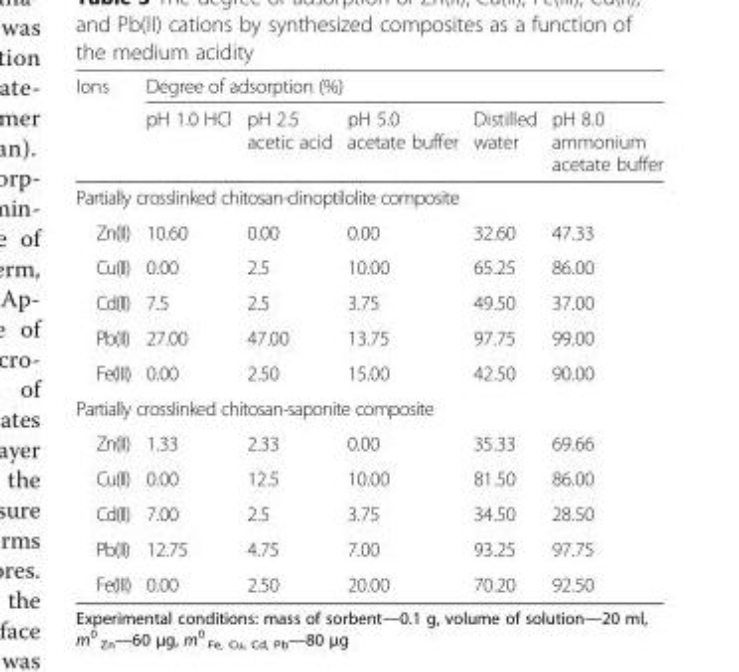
<table><thead><tr><td rowspan="2">Ions</td><td colspan="5">Degree of adsorption (%)</td></tr><tr><td>pH 1.0 HCl</td><td>pH 2.5 acetic acid</td><td>pH 5.0 acetate buffer</td><td>Distilled water</td><td>pH 8.0 ammonium acetate buffer</td></tr></thead><tbody><tr><td colspan="6">Partially crosslinked chitosan-clinoptilolite composite</td></tr><tr><td>Zn(II)</td><td>10.60</td><td>0.00</td><td>0.00</td><td>32.60</td><td>47.33</td></tr><tr><td>Cu(II)</td><td>0.00</td><td>2.5</td><td>10.00</td><td>65.25</td><td>86.00</td></tr><tr><td>Cd(II)</td><td>7.5</td><td>2.5</td><td>3.75</td><td>49.50</td><td>37.00</td></tr><tr><td>Pb(II)</td><td>27.00</td><td>47.00</td><td>13.75</td><td>97.75</td><td>99.00</td></tr><tr><td>Fe(III)</td><td>0.00</td><td>2.50</td><td>15.00</td><td>42.50</td><td>90.00</td></tr><tr><td colspan="6">Partially crosslinked chitosan-saponite composite</td></tr><tr><td>Zn(II)</td><td>1.33</td><td>2.33</td><td>0.00</td><td>35.33</td><td>69.66</td></tr><tr><td>Cu(II)</td><td>0.00</td><td>12.5</td><td>10.00</td><td>81.50</td><td>86.00</td></tr><tr><td>Cd(II)</td><td>7.00</td><td>2.5</td><td>3.75</td><td>34.50</td><td>28.50</td></tr><tr><td>Pb(II)</td><td>12.75</td><td>4.75</td><td>7.00</td><td>93.25</td><td>97.75</td></tr><tr><td>Fe(III)</td><td>0.00</td><td>2.50</td><td>20.00</td><td>70.20</td><td>92.50</td></tr></tbody></table>